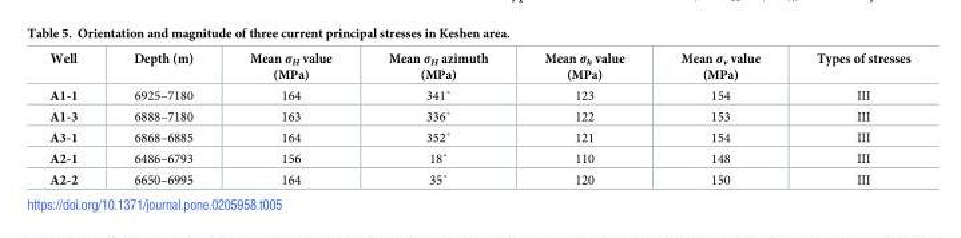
<table><thead><tr><td>Well</td><td>Depth (m)</td><td>Mean σ<sub>H</sub> value (MPa)</td><td>Mean σ<sub>H</sub> azimuth (MPa)</td><td>Mean σ<sub>h</sub> value (MPa)</td><td>Mean σ<sub>v</sub> value (MPa)</td><td>Types of stresses</td></tr></thead><tbody><tr><td>A1-1</td><td>6925–7180</td><td>164</td><td>341˚</td><td>123</td><td>154</td><td>III</td></tr><tr><td>A1-3</td><td>6888–7180</td><td>163</td><td>336˚</td><td>122</td><td>153</td><td>III</td></tr><tr><td>A3-1</td><td>6868–6885</td><td>164</td><td>352˚</td><td>121</td><td>154</td><td>III</td></tr><tr><td>A2-1</td><td>6486–6793</td><td>156</td><td>18˚</td><td>110</td><td>148</td><td>III</td></tr><tr><td>A2-2</td><td>6650–6995</td><td>164</td><td>35˚</td><td>120</td><td>150</td><td>III</td></tr></tbody></table>